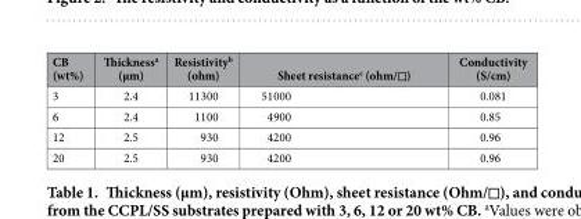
<table><thead><tr><td>CB (wt%)</td><td>Thickness<sup>a</sup> (μm)</td><td>Resistivity<sup>b</sup> (ohm)</td><td>Sheet resistance<sup>c</sup> (ohm/◻)</td><td>Conductivity (S/cm)</td></tr></thead><tbody><tr><td>3</td><td>2.4</td><td>11300</td><td>51000</td><td>0.081</td></tr><tr><td>6</td><td>2.4</td><td>1100</td><td>4900</td><td>0.85</td></tr><tr><td>12</td><td>2.5</td><td>930</td><td>4200</td><td>0.96</td></tr><tr><td>20</td><td>2.5</td><td>930</td><td>4200</td><td>0.96</td></tr></tbody></table>